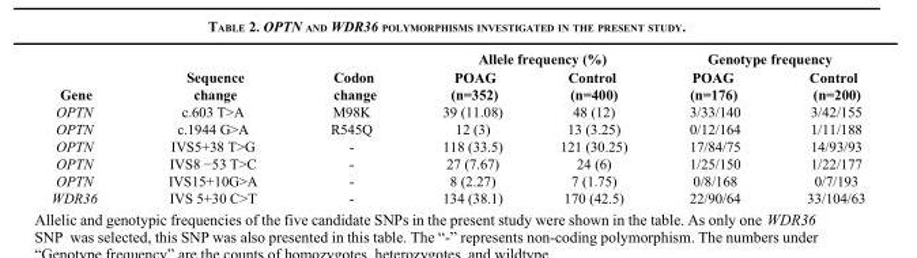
<table><thead><tr><td rowspan="2">Gene</td><td rowspan="2">Sequence change</td><td rowspan="2">Codon change</td><td colspan="2">Allele frequency (%)</td><td colspan="2">Genotype frequency</td></tr><tr><td>POAG (n=352)</td><td>Control (n=400)</td><td>POAG (n=176)</td><td>Control (n=200)</td></tr></thead><tbody><tr><td>OPTN</td><td>c.603 T&gt;A</td><td>M98K</td><td>39 (11.08)</td><td>48 (12)</td><td>3/33/140</td><td>3/42/155</td></tr><tr><td>OPTN</td><td>c.1944 G&gt;A</td><td>R545Q</td><td>12 (3)</td><td>13 (3.25)</td><td>0/12/164</td><td>1/11/188</td></tr><tr><td>OPTN</td><td>IVS5+38 T&gt;G</td><td>-</td><td>118 (33.5)</td><td>121 (30.25)</td><td>17/84/75</td><td>14/93/93</td></tr><tr><td>OPTN</td><td>IVS8 −53 T&gt;C</td><td>-</td><td>27 (7.67)</td><td>24 (6)</td><td>1/25/150</td><td>1/22/177</td></tr><tr><td>OPTN</td><td>IVS15+10G&gt;A</td><td>-</td><td>8 (2.27)</td><td>7 (1.75)</td><td>0/8/168</td><td>0/7/193</td></tr><tr><td>WDR36</td><td>IVS 5+30 C&gt;T</td><td>-</td><td>134 (38.1)</td><td>170 (42.5)</td><td>22/90/64</td><td>33/104/63</td></tr></tbody></table>